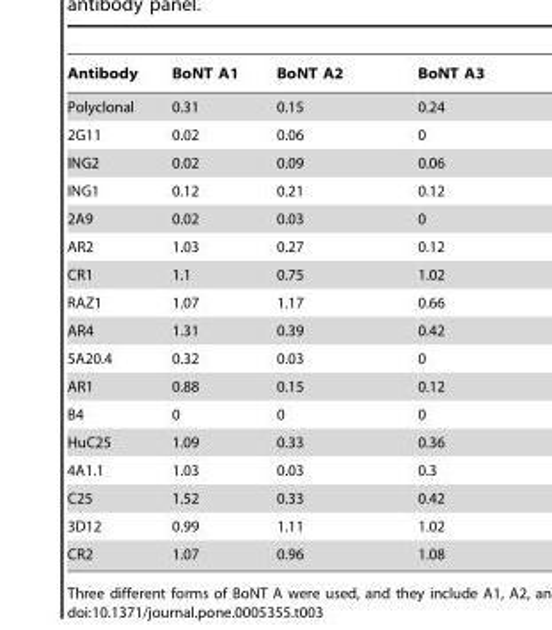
<table><thead><tr><td>Antibody</td><td>BoNT A1</td><td>BoNT A2</td><td>BoNT A3</td></tr></thead><tbody><tr><td>Polyclonal</td><td>0.31</td><td>0.15</td><td>0.24</td></tr><tr><td>2G11</td><td>0.02</td><td>0.06</td><td>0</td></tr><tr><td>ING2</td><td>0.02</td><td>0.09</td><td>0.06</td></tr><tr><td>ING1</td><td>0.12</td><td>0.21</td><td>0.12</td></tr><tr><td>2A9</td><td>0.02</td><td>0.03</td><td>0</td></tr><tr><td>AR2</td><td>1.03</td><td>0.27</td><td>0.12</td></tr><tr><td>CR1</td><td>1.1</td><td>0.75</td><td>1.02</td></tr><tr><td>RAZ1</td><td>1.07</td><td>1.17</td><td>0.66</td></tr><tr><td>AR4</td><td>1.31</td><td>0.39</td><td>0.42</td></tr><tr><td>5A20.4</td><td>0.32</td><td>0.03</td><td>0</td></tr><tr><td>AR1</td><td>0.88</td><td>0.15</td><td>0.12</td></tr><tr><td>B4</td><td>0</td><td>0</td><td>0</td></tr><tr><td>HuC25</td><td>1.09</td><td>0.33</td><td>0.36</td></tr><tr><td>4A1.1</td><td>1.03</td><td>0.03</td><td>0.3</td></tr><tr><td>C25</td><td>1.52</td><td>0.33</td><td>0.42</td></tr><tr><td>3D12</td><td>0.99</td><td>1.11</td><td>1.02</td></tr><tr><td>CR2</td><td>1.07</td><td>0.96</td><td>1.08</td></tr></tbody></table>